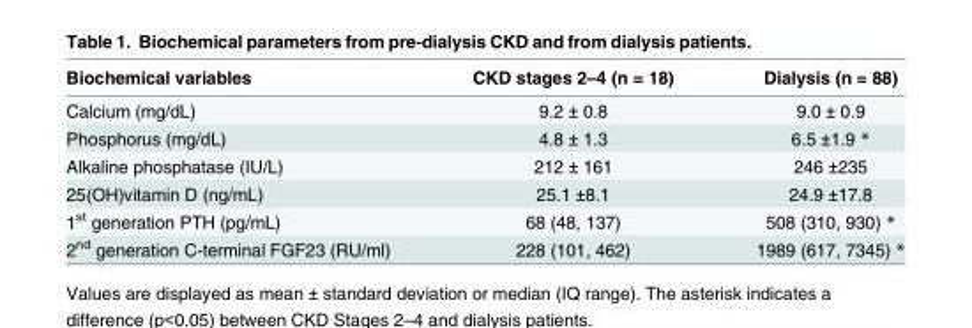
<table><thead><tr><td>Biochemical variables</td><td>CKD stages 2–4 (n = 18)</td><td>Dialysis (n = 88)</td></tr></thead><tbody><tr><td>Calcium (mg/dL)</td><td>9.2 ± 0.8</td><td>9.0 ± 0.9</td></tr><tr><td>Phosphorus (mg/dL)</td><td>4.8 ± 1.3</td><td>6.5 ±1.9 *</td></tr><tr><td>Alkaline phosphatase (IU/L)</td><td>212 ± 161</td><td>246 ±235</td></tr><tr><td>25(OH)vitamin D (ng/mL)</td><td>25.1 ±8.1</td><td>24.9 ±17.8</td></tr><tr><td>1<sup>st</sup> generation PTH (pg/mL)</td><td>68 (48, 137)</td><td>508 (310, 930) *</td></tr><tr><td>2<sup>nd</sup> generation C-terminal FGF23 (RU/ml)</td><td>228 (101, 462)</td><td>1989 (617, 7345) *</td></tr></tbody></table>